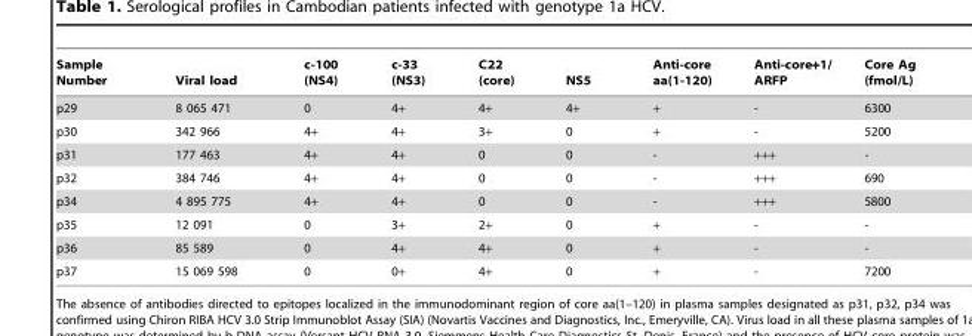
<table><thead><tr><td>Sample Number</td><td>Viral load</td><td>c-100 (NS4)</td><td>c-33 (NS3)</td><td>C22 (core)</td><td>NS5</td><td>Anti-core aa(1-120)</td><td>Anti-core+1/ ARFP</td><td>Core Ag (fmol/L)</td></tr></thead><tbody><tr><td>p29</td><td>8 065 471</td><td>0</td><td>4+</td><td>4+</td><td>4+</td><td>+</td><td>-</td><td>6300</td></tr><tr><td>p30</td><td>342 966</td><td>4+</td><td>4+</td><td>3+</td><td>0</td><td>+</td><td>-</td><td>5200</td></tr><tr><td>p31</td><td>177 463</td><td>4+</td><td>4+</td><td>0</td><td>0</td><td>-</td><td>+++</td><td>-</td></tr><tr><td>p32</td><td>384 746</td><td>4+</td><td>4+</td><td>0</td><td>0</td><td>-</td><td>+++</td><td>690</td></tr><tr><td>p34</td><td>4 895 775</td><td>4+</td><td>4+</td><td>0</td><td>0</td><td>-</td><td>+++</td><td>5800</td></tr><tr><td>p35</td><td>12 091</td><td>0</td><td>3+</td><td>2+</td><td>0</td><td>+</td><td>-</td><td>-</td></tr><tr><td>p36</td><td>85 589</td><td>0</td><td>4+</td><td>4+</td><td>0</td><td>+</td><td>-</td><td>-</td></tr><tr><td>p37</td><td>15 069 598</td><td>0</td><td>0+</td><td>4+</td><td>0</td><td>+</td><td>-</td><td>7200</td></tr></tbody></table>